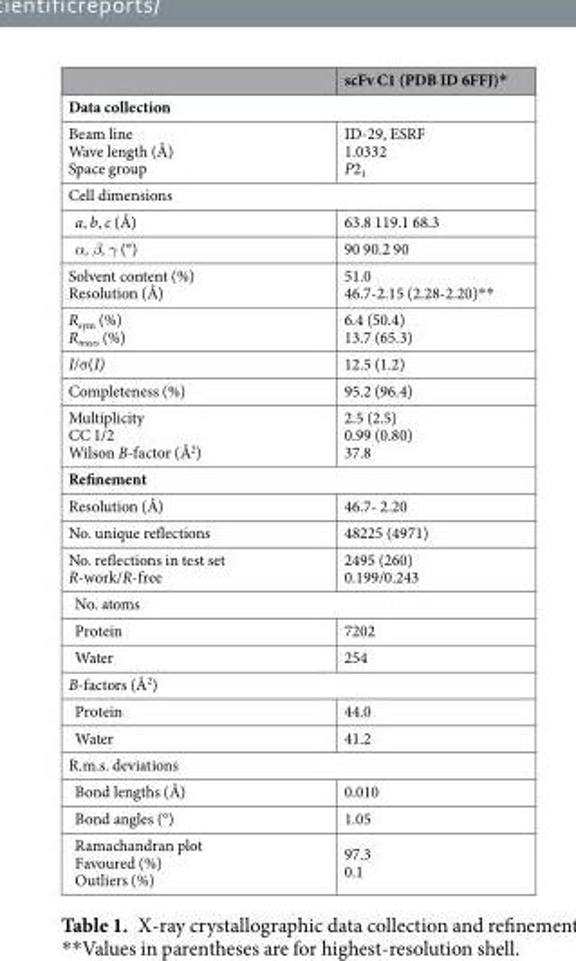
<table><thead><tr><td></td><td>scFv C1 (PDB ID 6FFJ)*</td></tr></thead><tbody><tr><td colspan="2">Data collection</td></tr><tr><td>Beam line Wave length (Å) Space group</td><td>ID-29, ESRF 1.0332 P2<sub>1</sub></td></tr><tr><td colspan="2">Cell dimensions</td></tr><tr><td>a, b, c (Å)</td><td>63.8 119.1 68.3</td></tr><tr><td>α, β, γ (°)</td><td>90 90.2 90</td></tr><tr><td>Solvent content (%) Resolution (Å)</td><td>51.0 46.7-2.15 (2.28-2.20)**</td></tr><tr><td>R<sub>sym</sub> (%) R<sub>meas</sub> (%)</td><td>6.4 (50.4) 13.7 (65.3)</td></tr><tr><td>I/σ(I)</td><td>12.5 (1.2)</td></tr><tr><td>Completeness (%)</td><td>95.2 (96.4)</td></tr><tr><td>Multiplicity CC 1/2 Wilson B-factor (Å<sup>2</sup>)</td><td>2.5 (2.5) 0.99 (0.80) 37.8</td></tr><tr><td colspan="2">Refinement</td></tr><tr><td>Resolution (Å)</td><td>46.7- 2.20</td></tr><tr><td>No. unique reflections</td><td>48225 (4971)</td></tr><tr><td>No. reflections in test set R-work/R-free</td><td>2495 (260) 0.199/0.243</td></tr><tr><td colspan="2">No. atoms</td></tr><tr><td>Protein</td><td>7202</td></tr><tr><td>Water</td><td>254</td></tr><tr><td colspan="2">B-factors (Å<sup>2</sup>)</td></tr><tr><td>Protein</td><td>44.0</td></tr><tr><td>Water</td><td>41.2</td></tr><tr><td colspan="2">R.m.s. deviations</td></tr><tr><td>Bond lengths (Å)</td><td>0.010</td></tr><tr><td>Bond angles (°)</td><td>1.05</td></tr><tr><td>Ramachandran plot Favoured (%) Outliers (%)</td><td>97.3 0.1</td></tr></tbody></table>